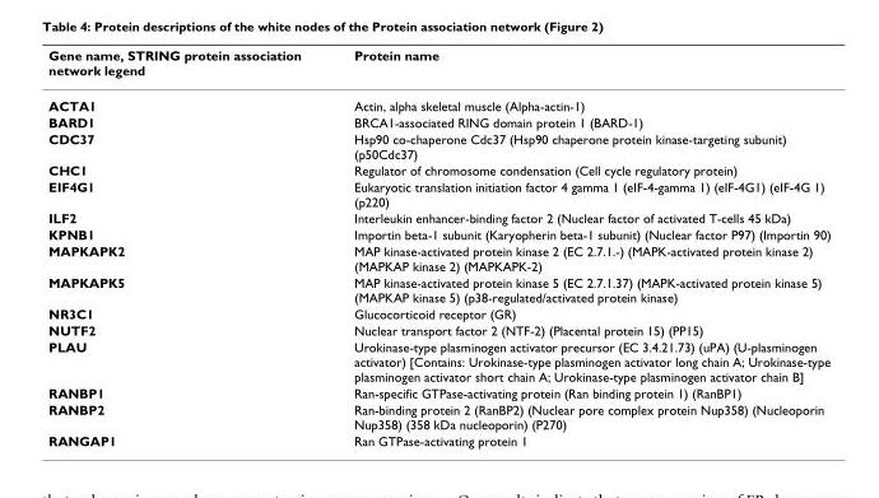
<table><thead><tr><td>Gene name, STRING protein association network legend</td><td>Protein name</td></tr></thead><tbody><tr><td>ACTA1</td><td>Actin, alpha skeletal muscle (Alpha-actin-1)</td></tr><tr><td>BARD1</td><td>BRCA1-associated RING domain protein 1 (BARD-1)</td></tr><tr><td>CDC37</td><td>Hsp90 co-chaperone Cdc37 (Hsp90 chaperone protein kinase-targeting subunit) (p50Cdc37)</td></tr><tr><td>CHC1</td><td>Regulator of chromosome condensation (Cell cycle regulatory protein)</td></tr><tr><td>EIF4G1</td><td>Eukaryotic translation initiation factor 4 gamma 1 (eIF-4-gamma 1) (eIF-4G1) (eIF-4G 1) (p220)</td></tr><tr><td>ILF2</td><td>Interleukin enhancer-binding factor 2 (Nuclear factor of activated T-cells 45 kDa)</td></tr><tr><td>KPNB1</td><td>Importin beta-1 subunit (Karyopherin beta-1 subunit) (Nuclear factor P97) (Importin 90)</td></tr><tr><td>MAPKAPK2</td><td>MAP kinase-activated protein kinase 2 (EC 2.7.1.-) (MAPK-activated protein kinase 2) (MAPKAP kinase 2) (MAPKAPK-2)</td></tr><tr><td>MAPKAPK5</td><td>MAP kinase-activated protein kinase 5 (EC 2.7.1.37) (MAPK-activated protein kinase 5) (MAPKAP kinase 5) (p38-regulated/activated protein kinase)</td></tr><tr><td>NR3C1</td><td>Glucocorticoid receptor (GR)</td></tr><tr><td>NUTF2</td><td>Nuclear transport factor 2 (NTF-2) (Placental protein 15) (PP15)</td></tr><tr><td>PLAU</td><td>Urokinase-type plasminogen activator precursor (EC 3.4.21.73) (uPA) (U-plasminogen activator) [Contains: Urokinase-type plasminogen activator long chain A; Urokinase-type plasminogen activator short chain A; Urokinase-type plasminogen activator chain B]</td></tr><tr><td>RANBP1</td><td>Ran-specific GTPase-activating protein (Ran binding protein 1) (RanBP1)</td></tr><tr><td>RANBP2</td><td>Ran-binding protein 2 (RanBP2) (Nuclear pore complex protein Nup358) (Nucleoporin Nup358) (358 kDa nucleoporin) (P270)</td></tr><tr><td>RANGAP1</td><td>Ran GTPase-activating protein 1</td></tr></tbody></table>